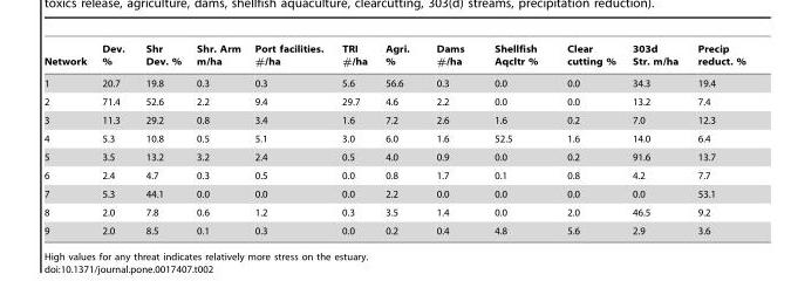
<table><thead><tr><td>Network</td><td>Dev. %</td><td>Shr Dev. %</td><td>Shr. Arm m/ha</td><td>Port facilities. #/ha</td><td>TRI #/ha</td><td>Agri. %</td><td>Dams #/ha</td><td>Shellfish Aqcltr %</td><td>Clear cutting %</td><td>303d Str. m/ha</td><td>Precip reduct. %</td></tr></thead><tbody><tr><td>1</td><td>20.7</td><td>19.8</td><td>0.3</td><td>0.3</td><td>5.6</td><td>56.6</td><td>0.3</td><td>0.0</td><td>0.0</td><td>34.3</td><td>19.4</td></tr><tr><td>2</td><td>71.4</td><td>52.6</td><td>2.2</td><td>9.4</td><td>29.7</td><td>4.6</td><td>2.2</td><td>0.0</td><td>0.0</td><td>13.2</td><td>7.4</td></tr><tr><td>3</td><td>11.3</td><td>29.2</td><td>0.8</td><td>3.4</td><td>1.6</td><td>7.2</td><td>2.6</td><td>1.6</td><td>0.2</td><td>7.0</td><td>12.3</td></tr><tr><td>4</td><td>5.3</td><td>10.8</td><td>0.5</td><td>5.1</td><td>3.0</td><td>6.0</td><td>1.6</td><td>52.5</td><td>1.6</td><td>14.0</td><td>6.4</td></tr><tr><td>5</td><td>3.5</td><td>13.2</td><td>3.2</td><td>2.4</td><td>0.5</td><td>4.0</td><td>0.9</td><td>0.0</td><td>0.2</td><td>91.6</td><td>13.7</td></tr><tr><td>6</td><td>2.4</td><td>4.7</td><td>0.3</td><td>0.5</td><td>0.0</td><td>0.8</td><td>1.7</td><td>0.1</td><td>0.8</td><td>4.2</td><td>7.7</td></tr><tr><td>7</td><td>5.3</td><td>44.1</td><td>0.0</td><td>0.0</td><td>0.0</td><td>2.2</td><td>0.0</td><td>0.0</td><td>0.0</td><td>0.0</td><td>53.1</td></tr><tr><td>8</td><td>2.0</td><td>7.8</td><td>0.6</td><td>1.2</td><td>0.3</td><td>3.5</td><td>1.4</td><td>0.0</td><td>2.0</td><td>46.5</td><td>9.2</td></tr><tr><td>9</td><td>2.0</td><td>8.5</td><td>0.1</td><td>0.3</td><td>0.0</td><td>0.2</td><td>0.4</td><td>4.8</td><td>5.6</td><td>2.9</td><td>3.6</td></tr></tbody></table>